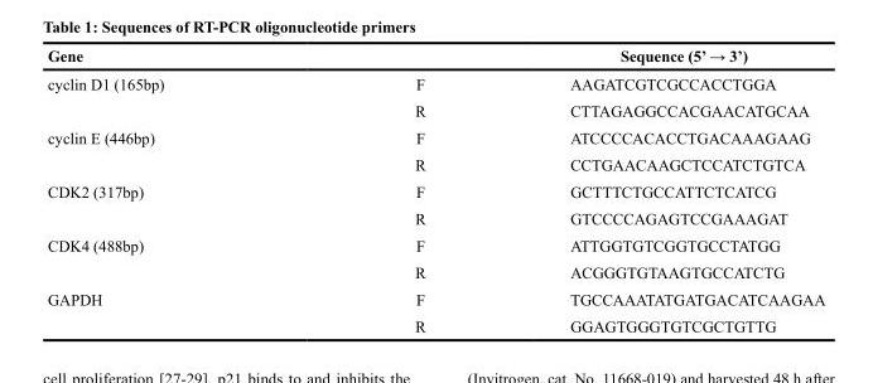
<table><thead><tr><td>Gene</td><td></td><td>Sequence (5’ → 3’)</td></tr></thead><tbody><tr><td rowspan="2">cyclin D1 (165bp)</td><td>F</td><td>AAGATCGTCGCCACCTGGA</td></tr><tr><td>R</td><td>CTTAGAGGCCACGAACATGCAA</td></tr><tr><td rowspan="2">cyclin E (446bp)</td><td>F</td><td>ATCCCCACACCTGACAAAGAAG</td></tr><tr><td>R</td><td>CCTGAACAAGCTCCATCTGTCA</td></tr><tr><td rowspan="2">CDK2 (317bp)</td><td>F</td><td>GCTTTCTGCCATTCTCATCG</td></tr><tr><td>R</td><td>GTCCCCAGAGTCCGAAAGAT</td></tr><tr><td rowspan="2">CDK4 (488bp)</td><td>F</td><td>ATTGGTGTCGGTGCCTATGG</td></tr><tr><td>R</td><td>ACGGGTGTAAGTGCCATCTG</td></tr><tr><td rowspan="2">GAPDH</td><td>F</td><td>TGCCAAATATGATGACATCAAGAA</td></tr><tr><td>R</td><td>GGAGTGGGTGTCGCTGTTG</td></tr></tbody></table>